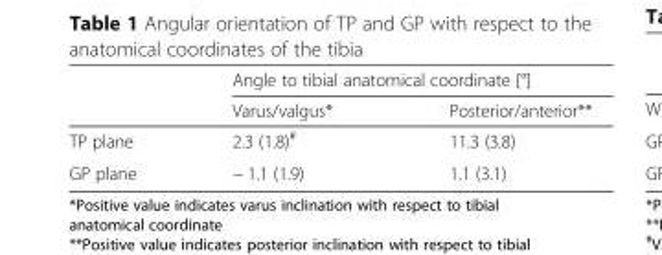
<table><thead><tr><td rowspan="2"></td><td colspan="2">Angle to tibial anatomical coordinate [°]</td></tr><tr><td>Varus/valgus*</td><td>Posterior/anterior**</td></tr></thead><tbody><tr><td>TP plane</td><td>2.3 (1.8)<sup>#</sup></td><td>11.3 (3.8)</td></tr><tr><td>GP plane</td><td>− 1.1 (1.9)</td><td>1.1 (3.1)</td></tr></tbody></table>